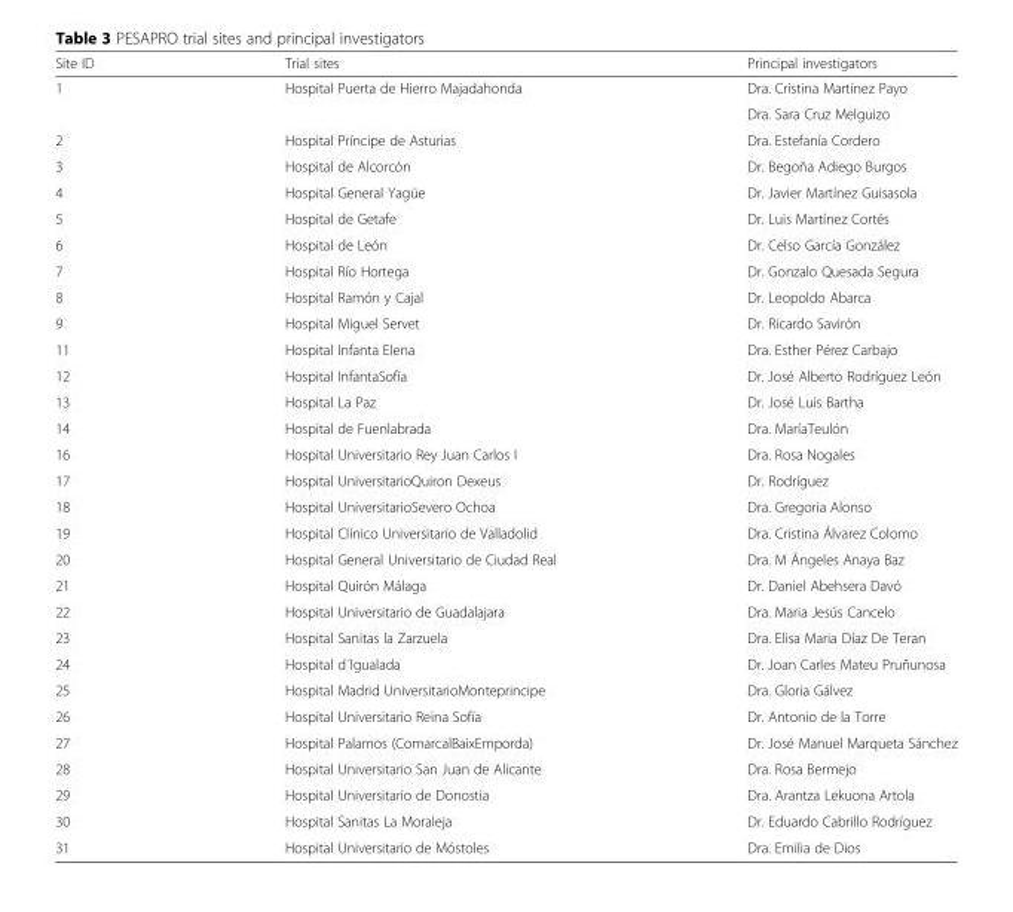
<table><thead><tr><td>Site ID</td><td>Trial sites</td><td>Principal investigators</td></tr></thead><tbody><tr><td rowspan="2">1</td><td rowspan="2">Hospital Puerta de Hierro Majadahonda</td><td>Dra. Cristina Martínez Payo</td></tr><tr><td>Dra. Sara Cruz Melguizo</td></tr><tr><td>2</td><td>Hospital Príncipe de Asturias</td><td>Dra. Estefanía Cordero</td></tr><tr><td>3</td><td>Hospital de Alcorcón</td><td>Dr. Begoña Adiego Burgos</td></tr><tr><td>4</td><td>Hospital General Yagüe</td><td>Dr. Javier Martínez Guisasola</td></tr><tr><td>5</td><td>Hospital de Getafe</td><td>Dr. Luis Martínez Cortés</td></tr><tr><td>6</td><td>Hospital de León</td><td>Dr. Celso García González</td></tr><tr><td>7</td><td>Hospital Río Hortega</td><td>Dr. Gonzalo Quesada Segura</td></tr><tr><td>8</td><td>Hospital Ramón y Cajal</td><td>Dr. Leopoldo Abarca</td></tr><tr><td>9</td><td>Hospital Miguel Servet</td><td>Dr. Ricardo Savirón</td></tr><tr><td>11</td><td>Hospital Infanta Elena</td><td>Dra. Esther Pérez Carbajo</td></tr><tr><td>12</td><td>Hospital InfantaSofía</td><td>Dr. José Alberto Rodríguez León</td></tr><tr><td>13</td><td>Hospital La Paz</td><td>Dr. José Luis Bartha</td></tr><tr><td>14</td><td>Hospital de Fuenlabrada</td><td>Dra. MaríaTeulón</td></tr><tr><td>16</td><td>Hospital Universitario Rey Juan Carlos I</td><td>Dra. Rosa Nogales</td></tr><tr><td>17</td><td>Hospital UniversitarioQuiron Dexeus</td><td>Dr. Rodríguez</td></tr><tr><td>18</td><td>Hospital UniversitarioSevero Ochoa</td><td>Dra. Gregoria Alonso</td></tr><tr><td>19</td><td>Hospital Clínico Universitario de Valladolid</td><td>Dra. Cristina Álvarez Colomo</td></tr><tr><td>20</td><td>Hospital General Universitario de Ciudad Real</td><td>Dra. M Ángeles Anaya Baz</td></tr><tr><td>21</td><td>Hospital Quirón Málaga</td><td>Dr. Daniel Abehsera Davó</td></tr><tr><td>22</td><td>Hospital Universitario de Guadalajara</td><td>Dra. Maria Jesús Cancelo</td></tr><tr><td>23</td><td>Hospital Sanitas la Zarzuela</td><td>Dra. Elisa Maria Díaz De Teran</td></tr><tr><td>24</td><td>Hospital d´Igualada</td><td>Dr. Joan Carles Mateu Pruñunosa</td></tr><tr><td>25</td><td>Hospital Madrid UniversitarioMonteprincipe</td><td>Dra. Gloria Gálvez</td></tr><tr><td>26</td><td>Hospital Universitario Reina Sofía</td><td>Dr. Antonio de la Torre</td></tr><tr><td>27</td><td>Hospital Palamos (ComarcalBaixEmporda)</td><td>Dr. José Manuel Marqueta Sánchez</td></tr><tr><td>28</td><td>Hospital Universitario San Juan de Alicante</td><td>Dra. Rosa Bermejo</td></tr><tr><td>29</td><td>Hospital Universitario de Donostia</td><td>Dra. Arantza Lekuona Artola</td></tr><tr><td>30</td><td>Hospital Sanitas La Moraleja</td><td>Dr. Eduardo Cabrillo Rodríguez</td></tr><tr><td>31</td><td>Hospital Universitario de Móstoles</td><td>Dra. Emilia de Dios</td></tr></tbody></table>